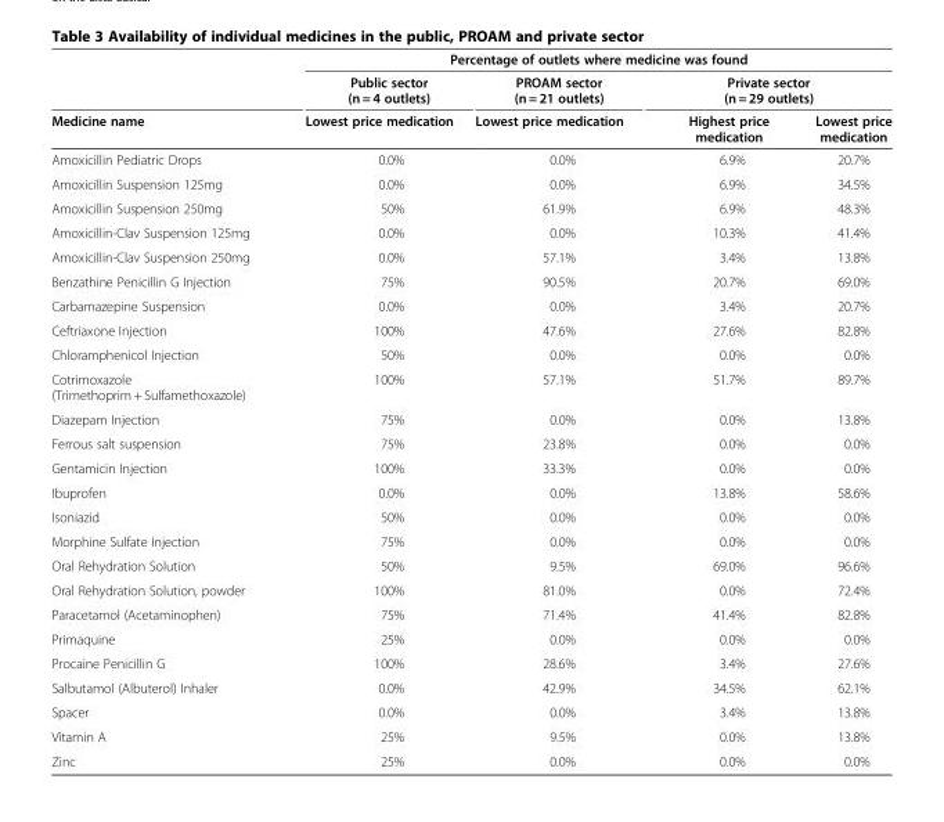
<table><thead><tr><td rowspan="3">Medicine name</td><td colspan="4">Percentage of outlets where medicine was found</td></tr><tr><td rowspan="2">Public sector (n = 4 outlets) Lowest price medication</td><td rowspan="2">PROAM sector (n = 21 outlets) Lowest price medication</td><td colspan="2">Private sector (n = 29 outlets)</td></tr><tr><td>Highest price medication</td><td>Lowest price medication</td></tr></thead><tbody><tr><td>Amoxicillin Pediatric Drops</td><td>0.0%</td><td>0.0%</td><td>6.9%</td><td>20.7%</td></tr><tr><td>Amoxicillin Suspension 125mg</td><td>0.0%</td><td>0.0%</td><td>6.9%</td><td>34.5%</td></tr><tr><td>Amoxicillin Suspension 250mg</td><td>50%</td><td>61.9%</td><td>6.9%</td><td>48.3%</td></tr><tr><td>Amoxicillin-Clav Suspension 125mg</td><td>0.0%</td><td>0.0%</td><td>10.3%</td><td>41.4%</td></tr><tr><td>Amoxicillin-Clav Suspension 250mg</td><td>0.0%</td><td>57.1%</td><td>3.4%</td><td>13.8%</td></tr><tr><td>Benzathine Penicillin G Injection</td><td>75%</td><td>90.5%</td><td>20.7%</td><td>69.0%</td></tr><tr><td>Carbamazepine Suspension</td><td>0.0%</td><td>0.0%</td><td>3.4%</td><td>20.7%</td></tr><tr><td>Ceftriaxone Injection</td><td>100%</td><td>47.6%</td><td>27.6%</td><td>82.8%</td></tr><tr><td>Chloramphenicol Injection</td><td>50%</td><td>0.0%</td><td>0.0%</td><td>0.0%</td></tr><tr><td>Cotrimoxazole (Trimethoprim + Sulfamethoxazole)</td><td>100%</td><td>57.1%</td><td>51.7%</td><td>89.7%</td></tr><tr><td>Diazepam Injection</td><td>75%</td><td>0.0%</td><td>0.0%</td><td>13.8%</td></tr><tr><td>Ferrous salt suspension</td><td>75%</td><td>23.8%</td><td>0.0%</td><td>0.0%</td></tr><tr><td>Gentamicin Injection</td><td>100%</td><td>33.3%</td><td>0.0%</td><td>0.0%</td></tr><tr><td>Ibuprofen</td><td>0.0%</td><td>0.0%</td><td>13.8%</td><td>58.6%</td></tr><tr><td>Isoniazid</td><td>50%</td><td>0.0%</td><td>0.0%</td><td>0.0%</td></tr><tr><td>Morphine Sulfate Injection</td><td>75%</td><td>0.0%</td><td>0.0%</td><td>0.0%</td></tr><tr><td>Oral Rehydration Solution</td><td>50%</td><td>9.5%</td><td>69.0%</td><td>96.6%</td></tr><tr><td>Oral Rehydration Solution, powder</td><td>100%</td><td>81.0%</td><td>0.0%</td><td>72.4%</td></tr><tr><td>Paracetamol (Acetaminophen)</td><td>75%</td><td>71.4%</td><td>41.4%</td><td>82.8%</td></tr><tr><td>Primaquine</td><td>25%</td><td>0.0%</td><td>0.0%</td><td>0.0%</td></tr><tr><td>Procaine Penicillin G</td><td>100%</td><td>28.6%</td><td>3.4%</td><td>27.6%</td></tr><tr><td>Salbutamol (Albuterol) Inhaler</td><td>0.0%</td><td>42.9%</td><td>34.5%</td><td>62.1%</td></tr><tr><td>Spacer</td><td>0.0%</td><td>0.0%</td><td>3.4%</td><td>13.8%</td></tr><tr><td>Vitamin A</td><td>25%</td><td>9.5%</td><td>0.0%</td><td>13.8%</td></tr><tr><td>Zinc</td><td>25%</td><td>0.0%</td><td>0.0%</td><td>0.0%</td></tr></tbody></table>